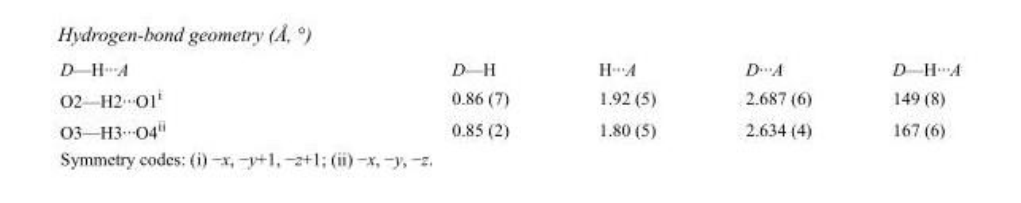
<table><tbody><tr><td>D—H···A</td><td>D—H</td><td>H···A</td><td>D···A</td><td>D—H···A</td></tr><tr><td>O2—H2···O1<sup>i</sup></td><td>0.86 (7)</td><td>1.92 (5)</td><td>2.687 (6)</td><td>149 (8)</td></tr><tr><td>O3—H3···O4<sup>ii</sup></td><td>0.85 (2)</td><td>1.80 (5)</td><td>2.634 (4)</td><td>167 (6)</td></tr></tbody></table>